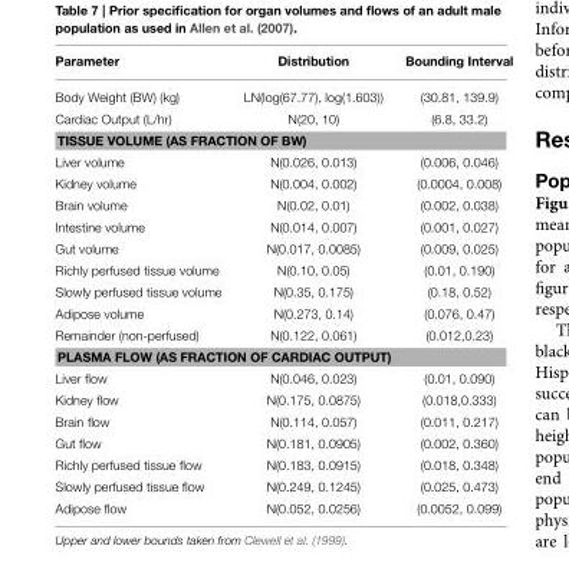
<table><thead><tr><td>Parameter</td><td>Distribution</td><td>Bounding Interval</td></tr></thead><tbody><tr><td>Body Weight (BW) (kg)</td><td>LN(log(67.77), log(1.603))</td><td>(30.81, 139.9)</td></tr><tr><td>Cardiac Output (L/hr)</td><td>N(20, 10)</td><td>(6.8, 33.2)</td></tr><tr><td colspan="3">TISSUE VOLUME (AS FRACTION OF BW)</td></tr><tr><td>Liver volume</td><td>N(0.026, 0.013)</td><td>(0.006, 0.046)</td></tr><tr><td>Kidney volume</td><td>N(0.004, 0.002)</td><td>(0.0004, 0.008)</td></tr><tr><td>Brain volume</td><td>N(0.02, 0.01)</td><td>(0.002, 0.038)</td></tr><tr><td>Intestine volume</td><td>N(0.014, 0.007)</td><td>(0.001, 0.027)</td></tr><tr><td>Gut volume</td><td>N(0.017, 0.0085)</td><td>(0.009, 0.025)</td></tr><tr><td>Richly perfused tissue volume</td><td>N(0.10, 0.05)</td><td>(0.01, 0.190)</td></tr><tr><td>Slowly perfused tissue volume</td><td>N(0.35, 0.175)</td><td>(0.18, 0.52)</td></tr><tr><td>Adipose volume</td><td>N(0.273, 0.14)</td><td>(0.076, 0.47)</td></tr><tr><td>Remainder (non-perfused)</td><td>N(0.122, 0.061)</td><td>(0.012,0.23)</td></tr><tr><td colspan="3">PLASMA FLOW (AS FRACTION OF CARDIAC OUTPUT)</td></tr><tr><td>Liver flow</td><td>N(0.046, 0.023)</td><td>(0.01, 0.090)</td></tr><tr><td>Kidney flow</td><td>N(0.175, 0.0875)</td><td>(0.018,0.333)</td></tr><tr><td>Brain flow</td><td>N(0.114, 0.057)</td><td>(0.011, 0.217)</td></tr><tr><td>Gut flow</td><td>N(0.181, 0.0905)</td><td>(0.002, 0.360)</td></tr><tr><td>Richly perfused tissue flow</td><td>N(0.183, 0.0915)</td><td>(0.018, 0.348)</td></tr><tr><td>Slowly perfused tissue flow</td><td>N(0.249, 0.1245)</td><td>(0.025, 0.473)</td></tr><tr><td>Adipose flow</td><td>N(0.052, 0.0256)</td><td>(0.0052, 0.099)</td></tr></tbody></table>